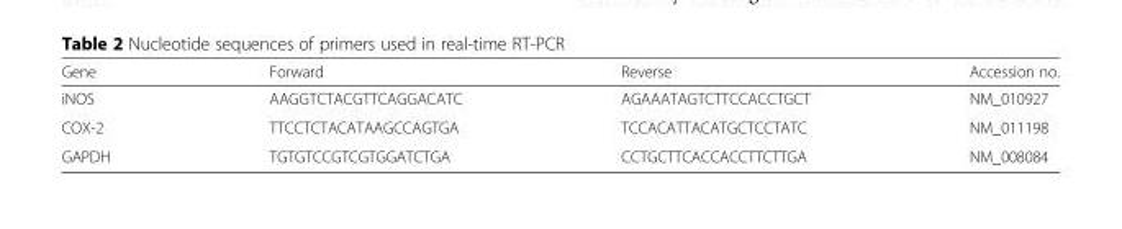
<table><thead><tr><td>Gene</td><td>Forward</td><td>Reverse</td><td>Accession no.</td></tr></thead><tbody><tr><td>iNOS</td><td>AAGGTCTACGTTCAGGACATC</td><td>AGAAATAGTCTTCCACCTGCT</td><td>NM_010927</td></tr><tr><td>COX-2</td><td>TTCCTCTACATAAGCCAGTGA</td><td>TCCACATTACATGCTCCTATC</td><td>NM_011198</td></tr><tr><td>GAPDH</td><td>TGTGTCCGTCGTGGATCTGA</td><td>CCTGCTTCACCACCTTCTTGA</td><td>NM_008084</td></tr></tbody></table>